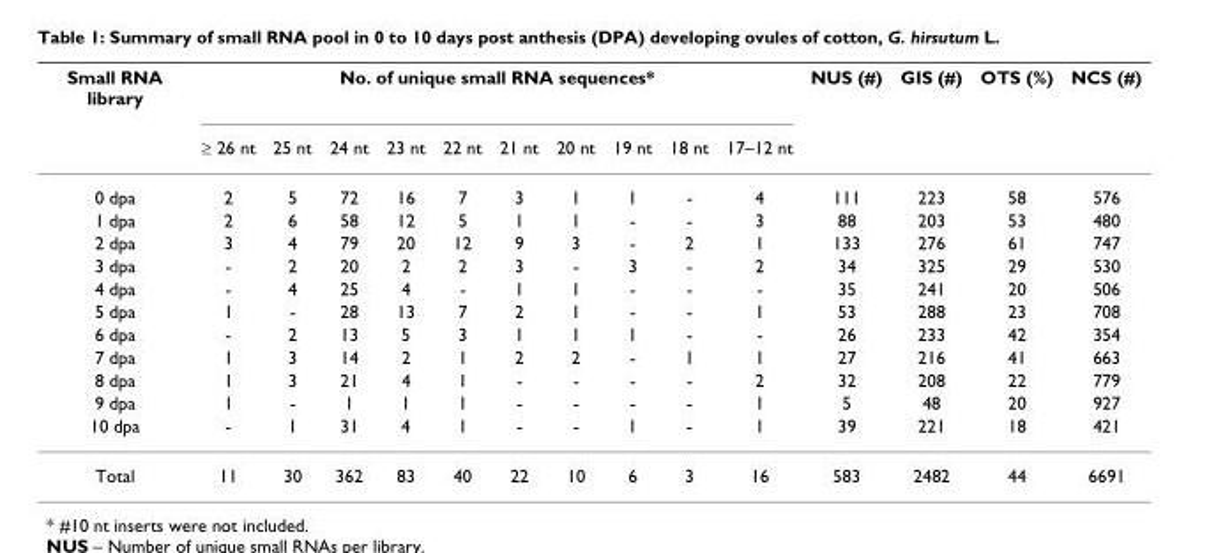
<table><thead><tr><td rowspan="2">Small RNA library</td><td colspan="10">No. of unique small RNA sequences*</td><td rowspan="2">NUS (#)</td><td rowspan="2">GIS (#)</td><td rowspan="2">OTS (%)</td><td rowspan="2">NCS (#)</td></tr><tr><td>≥ 26 nt</td><td>25 nt</td><td>24 nt</td><td>23 nt</td><td>22 nt</td><td>21 nt</td><td>20 nt</td><td>19 nt</td><td>18 nt</td><td>17–12 nt</td></tr></thead><tbody><tr><td>0 dpa</td><td>2</td><td>5</td><td>72</td><td>16</td><td>7</td><td>3</td><td>1</td><td>1</td><td>-</td><td>4</td><td>111</td><td>223</td><td>58</td><td>576</td></tr><tr><td>1 dpa</td><td>2</td><td>6</td><td>58</td><td>12</td><td>5</td><td>1</td><td>1</td><td>-</td><td>-</td><td>3</td><td>88</td><td>203</td><td>53</td><td>480</td></tr><tr><td>2 dpa</td><td>3</td><td>4</td><td>79</td><td>20</td><td>12</td><td>9</td><td>3</td><td>-</td><td>2</td><td>1</td><td>133</td><td>276</td><td>61</td><td>747</td></tr><tr><td>3 dpa</td><td>-</td><td>2</td><td>20</td><td>2</td><td>2</td><td>3</td><td>-</td><td>3</td><td>-</td><td>2</td><td>34</td><td>325</td><td>29</td><td>530</td></tr><tr><td>4 dpa</td><td>-</td><td>4</td><td>25</td><td>4</td><td>-</td><td>1</td><td>1</td><td>-</td><td>-</td><td>-</td><td>35</td><td>241</td><td>20</td><td>506</td></tr><tr><td>5 dpa</td><td>1</td><td>-</td><td>28</td><td>13</td><td>7</td><td>2</td><td>1</td><td>-</td><td>-</td><td>1</td><td>53</td><td>288</td><td>23</td><td>708</td></tr><tr><td>6 dpa</td><td>-</td><td>2</td><td>13</td><td>5</td><td>3</td><td>1</td><td>1</td><td>1</td><td>-</td><td>-</td><td>26</td><td>233</td><td>42</td><td>354</td></tr><tr><td>7 dpa</td><td>1</td><td>3</td><td>14</td><td>2</td><td>1</td><td>2</td><td>2</td><td>-</td><td>1</td><td>1</td><td>27</td><td>216</td><td>41</td><td>663</td></tr><tr><td>8 dpa</td><td>1</td><td>3</td><td>21</td><td>4</td><td>1</td><td>-</td><td>-</td><td>-</td><td>-</td><td>2</td><td>32</td><td>208</td><td>22</td><td>779</td></tr><tr><td>9 dpa</td><td>1</td><td>-</td><td>1</td><td>1</td><td>1</td><td>-</td><td>-</td><td>-</td><td>-</td><td>1</td><td>5</td><td>48</td><td>20</td><td>927</td></tr><tr><td>10 dpa</td><td>-</td><td>1</td><td>31</td><td>4</td><td>1</td><td>-</td><td>-</td><td>1</td><td>-</td><td>1</td><td>39</td><td>221</td><td>18</td><td>421</td></tr><tr><td>Total</td><td>11</td><td>30</td><td>362</td><td>83</td><td>40</td><td>22</td><td>10</td><td>6</td><td>3</td><td>16</td><td>583</td><td>2482</td><td>44</td><td>6691</td></tr></tbody></table>